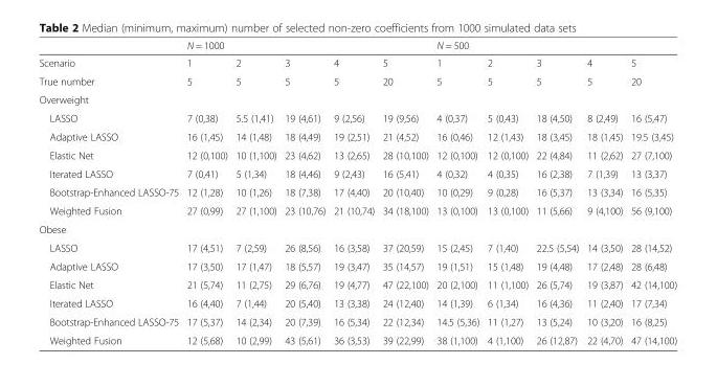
<table><thead><tr><td rowspan="2">Scenario</td><td colspan="5">N = 1000</td><td colspan="5">N = 500</td></tr><tr><td>1</td><td>2</td><td>3</td><td>4</td><td>5</td><td>1</td><td>2</td><td>3</td><td>4</td><td>5</td></tr></thead><tbody><tr><td>True number</td><td>5</td><td>5</td><td>5</td><td>5</td><td>20</td><td>5</td><td>5</td><td>5</td><td>5</td><td>20</td></tr><tr><td colspan="11">Overweight</td></tr><tr><td>LASSO</td><td>7 (0,38)</td><td>5.5 (1,41)</td><td>19 (4,61)</td><td>9 (2,56)</td><td>19 (9,56)</td><td>4 (0,37)</td><td>5 (0,43)</td><td>18 (4,50)</td><td>8 (2,49)</td><td>16 (5,47)</td></tr><tr><td>Adaptive LASSO</td><td>16 (1,45)</td><td>14 (1,48)</td><td>18 (4,49)</td><td>19 (2,51)</td><td>21 (4,52)</td><td>16 (0,46)</td><td>12 (1,43)</td><td>18 (3,45)</td><td>18 (1,45)</td><td>19.5 (3,45)</td></tr><tr><td>Elastic Net</td><td>12 (0,100)</td><td>10 (1,100)</td><td>23 (4,62)</td><td>13 (2,65)</td><td>28 (10,100)</td><td>12 (0,100)</td><td>12 (0,100)</td><td>22 (4,84)</td><td>11 (2,62)</td><td>27 (7,100)</td></tr><tr><td>Iterated LASSO</td><td>7 (0,41)</td><td>5 (1,34)</td><td>18 (4,46)</td><td>9 (2,43)</td><td>16 (5,41)</td><td>4 (0,32)</td><td>4 (0,35)</td><td>16 (2,38)</td><td>7 (1,39)</td><td>13 (3,37)</td></tr><tr><td>Bootstrap-Enhanced LASSO-75</td><td>12 (1,28)</td><td>10 (1,26)</td><td>18 (7,38)</td><td>17 (4,40)</td><td>20 (10,40)</td><td>10 (0,29)</td><td>9 (0,28)</td><td>16 (5,37)</td><td>13 (3,34)</td><td>16 (5,35)</td></tr><tr><td>Weighted Fusion</td><td>27 (0,99)</td><td>27 (1,100)</td><td>23 (10,76)</td><td>21 (10,74)</td><td>34 (18,100)</td><td>13 (0,100)</td><td>13 (0,100)</td><td>11 (5,66)</td><td>9 (4,100)</td><td>56 (9,100)</td></tr><tr><td colspan="11">Obese</td></tr><tr><td>LASSO</td><td>17 (4,51)</td><td>7 (2,59)</td><td>26 (8,56)</td><td>16 (3,58)</td><td>37 (20,59)</td><td>15 (2,45)</td><td>7 (1,40)</td><td>22.5 (5,54)</td><td>14 (3,50)</td><td>28 (14,52)</td></tr><tr><td>Adaptive LASSO</td><td>17 (3,50)</td><td>17 (1,47)</td><td>18 (5,57)</td><td>19 (3,47)</td><td>35 (14,57)</td><td>19 (1,51)</td><td>15 (1,48)</td><td>19 (4,48)</td><td>17 (2,48)</td><td>28 (6,48)</td></tr><tr><td>Elastic Net</td><td>21 (5,74)</td><td>11 (2,75)</td><td>29 (6,76)</td><td>19 (4,77)</td><td>47 (22,100)</td><td>20 (2,100)</td><td>11 (1,100)</td><td>26 (5,74)</td><td>19 (3,87)</td><td>42 (14,100)</td></tr><tr><td>Iterated LASSO</td><td>16 (4,40)</td><td>7 (1,44)</td><td>20 (5,40)</td><td>13 (3,38)</td><td>24 (12,40)</td><td>14 (1,39)</td><td>6 (1,34)</td><td>16 (4,36)</td><td>11 (2,40)</td><td>17 (7,34)</td></tr><tr><td>Bootstrap-Enhanced LASSO-75</td><td>17 (5,37)</td><td>14 (2,34)</td><td>20 (7,39)</td><td>16 (5,34)</td><td>22 (12,34)</td><td>14.5 (5,36)</td><td>11 (1,27)</td><td>13 (5,24)</td><td>10 (3,20)</td><td>16 (8,25)</td></tr><tr><td>Weighted Fusion</td><td>12 (5,68)</td><td>10 (2,99)</td><td>43 (5,61)</td><td>36 (3,53)</td><td>39 (22,99)</td><td>38 (1,100)</td><td>4 (1,100)</td><td>26 (12,87)</td><td>22 (4,70)</td><td>47 (14,100)</td></tr></tbody></table>